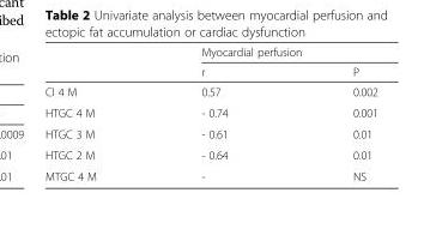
<table><thead><tr><td rowspan="2"></td><td colspan="2">Myocardial perfusion</td></tr><tr><td>r</td><td>P</td></tr></thead><tbody><tr><td>CI 4 M</td><td>0.57</td><td>0.002</td></tr><tr><td>HTGC 4 M</td><td>- 0.74</td><td>0.001</td></tr><tr><td>HTGC 3 M</td><td>- 0.61</td><td>0.01</td></tr><tr><td>HTGC 2 M</td><td>- 0.64</td><td>0.01</td></tr><tr><td>MTGC 4 M</td><td>-</td><td>NS</td></tr></tbody></table>